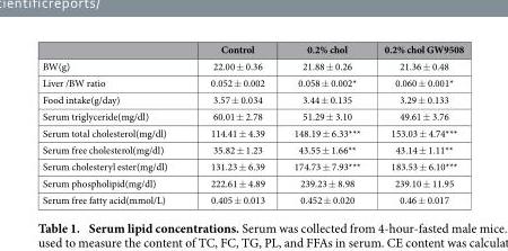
<table><thead><tr><td></td><td>Control</td><td>0.2% chol</td><td>0.2% chol GW9508</td></tr></thead><tbody><tr><td>BW(g)</td><td>22.00 ± 0.36</td><td>21.88 ± 0.26</td><td>21.36 ± 0.48</td></tr><tr><td>Liver /BW ratio</td><td>0.052 ± 0.002</td><td>0.058 ± 0.002*</td><td>0.060 ± 0.001*</td></tr><tr><td>Food intake(g/day)</td><td>3.57 ± 0.034</td><td>3.44 ± 0.135</td><td>3.29 ± 0.133</td></tr><tr><td>Serum triglyceride(mg/dl)</td><td>60.01 ± 2.78</td><td>51.29 ± 3.10</td><td>49.61 ± 3.76</td></tr><tr><td>Serum total cholesterol(mg/dl)</td><td>114.41 ± 4.39</td><td>148.19 ± 6.33***</td><td>153.03 ± 4.74***</td></tr><tr><td>Serum free cholesterol(mg/dl)</td><td>35.82 ± 1.23</td><td>43.55 ± 1.66**</td><td>43.14 ± 1.11**</td></tr><tr><td>Serum cholesteryl ester(mg/dl)</td><td>131.23 ± 6.39</td><td>174.73 ± 7.93***</td><td>183.53 ± 6.10***</td></tr><tr><td>Serum phospholipid(mg/dl)</td><td>222.61 ± 4.89</td><td>239.23 ± 8.98</td><td>239.10 ± 11.95</td></tr><tr><td>Serum free fatty acid(mmol/L)</td><td>0.405 ± 0.013</td><td>0.452 ± 0.020</td><td>0.46 ± 0.017</td></tr></tbody></table>